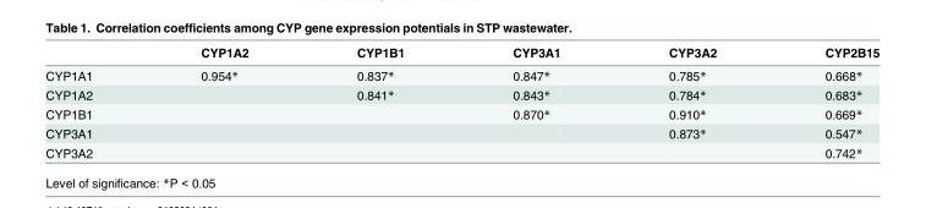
<table><thead><tr><td></td><td>CYP1A2</td><td>CYP1B1</td><td>CYP3A1</td><td>CYP3A2</td><td>CYP2B15</td></tr></thead><tbody><tr><td>CYP1A1</td><td>0.954*</td><td>0.837*</td><td>0.847*</td><td>0.785*</td><td>0.668*</td></tr><tr><td>CYP1A2</td><td></td><td>0.841*</td><td>0.843*</td><td>0.784*</td><td>0.683*</td></tr><tr><td>CYP1B1</td><td></td><td></td><td>0.870*</td><td>0.910*</td><td>0.669*</td></tr><tr><td>CYP3A1</td><td></td><td></td><td></td><td>0.873*</td><td>0.547*</td></tr><tr><td>CYP3A2</td><td></td><td></td><td></td><td></td><td>0.742*</td></tr></tbody></table>